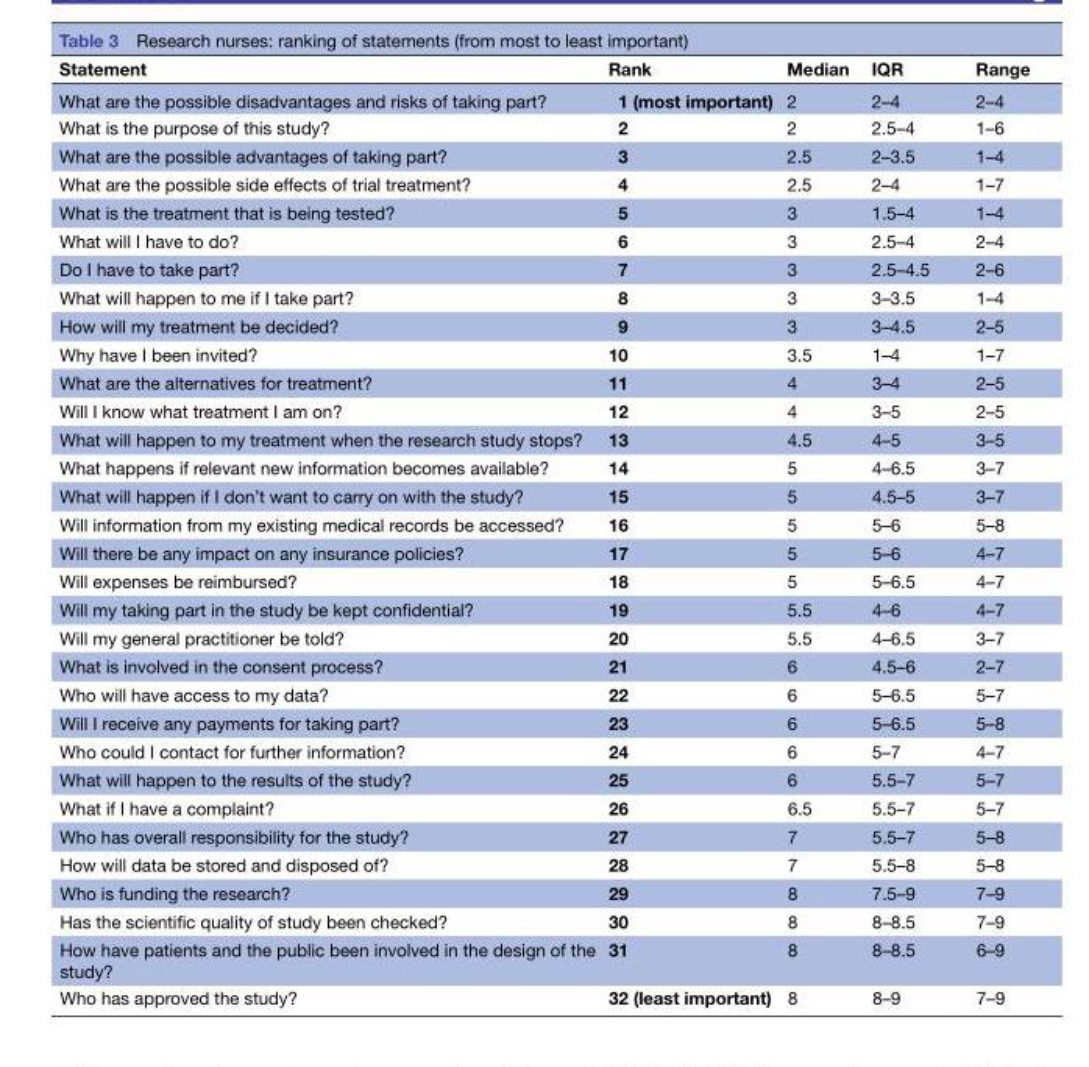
<table><thead><tr><td>Statement</td><td>Rank</td><td>Median</td><td>IQR</td><td>Range</td></tr></thead><tbody><tr><td>What are the possible disadvantages and risks of taking part?</td><td>1 (most important)</td><td>2</td><td>2–4</td><td>2–4</td></tr><tr><td>What is the purpose of this study?</td><td>2</td><td>2</td><td>2.5–4</td><td>1–6</td></tr><tr><td>What are the possible advantages of taking part?</td><td>3</td><td>2.5</td><td>2–3.5</td><td>1–4</td></tr><tr><td>What are the possible side effects of trial treatment?</td><td>4</td><td>2.5</td><td>2–4</td><td>1–7</td></tr><tr><td>What is the treatment that is being tested?</td><td>5</td><td>3</td><td>1.5–4</td><td>1–4</td></tr><tr><td>What will I have to do?</td><td>6</td><td>3</td><td>2.5–4</td><td>2–4</td></tr><tr><td>Do I have to take part?</td><td>7</td><td>3</td><td>2.5–4.5</td><td>2–6</td></tr><tr><td>What will happen to me if I take part?</td><td>8</td><td>3</td><td>3–3.5</td><td>1–4</td></tr><tr><td>How will my treatment be decided?</td><td>9</td><td>3</td><td>3–4.5</td><td>2–5</td></tr><tr><td>Why have I been invited?</td><td>10</td><td>3.5</td><td>1–4</td><td>1–7</td></tr><tr><td>What are the alternatives for treatment?</td><td>11</td><td>4</td><td>3–4</td><td>2–5</td></tr><tr><td>Will I know what treatment I am on?</td><td>12</td><td>4</td><td>3–5</td><td>2–5</td></tr><tr><td>What will happen to my treatment when the research study stops?</td><td>13</td><td>4.5</td><td>4–5</td><td>3–5</td></tr><tr><td>What happens if relevant new information becomes available?</td><td>14</td><td>5</td><td>4–6.5</td><td>3–7</td></tr><tr><td>What will happen if I don’t want to carry on with the study?</td><td>15</td><td>5</td><td>4.5–5</td><td>3–7</td></tr><tr><td>Will information from my existing medical records be accessed?</td><td>16</td><td>5</td><td>5–6</td><td>5–8</td></tr><tr><td>Will there be any impact on any insurance policies?</td><td>17</td><td>5</td><td>5–6</td><td>4–7</td></tr><tr><td>Will expenses be reimbursed?</td><td>18</td><td>5</td><td>5–6.5</td><td>4–7</td></tr><tr><td>Will my taking part in the study be kept confidential?</td><td>19</td><td>5.5</td><td>4–6</td><td>4–7</td></tr><tr><td>Will my general practitioner be told?</td><td>20</td><td>5.5</td><td>4–6.5</td><td>3–7</td></tr><tr><td>What is involved in the consent process?</td><td>21</td><td>6</td><td>4.5–6</td><td>2–7</td></tr><tr><td>Who will have access to my data?</td><td>22</td><td>6</td><td>5–6.5</td><td>5–7</td></tr><tr><td>Will I receive any payments for taking part?</td><td>23</td><td>6</td><td>5–6.5</td><td>5–8</td></tr><tr><td>Who could I contact for further information?</td><td>24</td><td>6</td><td>5–7</td><td>4–7</td></tr><tr><td>What will happen to the results of the study?</td><td>25</td><td>6</td><td>5.5–7</td><td>5–7</td></tr><tr><td>What if I have a complaint?</td><td>26</td><td>6.5</td><td>5.5–7</td><td>5–7</td></tr><tr><td>Who has overall responsibility for the study?</td><td>27</td><td>7</td><td>5.5–7</td><td>5–8</td></tr><tr><td>How will data be stored and disposed of?</td><td>28</td><td>7</td><td>5.5–8</td><td>5–8</td></tr><tr><td>Who is funding the research?</td><td>29</td><td>8</td><td>7.5–9</td><td>7–9</td></tr><tr><td>Has the scientific quality of study been checked?</td><td>30</td><td>8</td><td>8–8.5</td><td>7–9</td></tr><tr><td>How have patients and the public been involved in the design of the study?</td><td>31</td><td>8</td><td>8–8.5</td><td>6–9</td></tr><tr><td>Who has approved the study?</td><td>32 (least important)</td><td>8</td><td>8–9</td><td>7–9</td></tr></tbody></table>